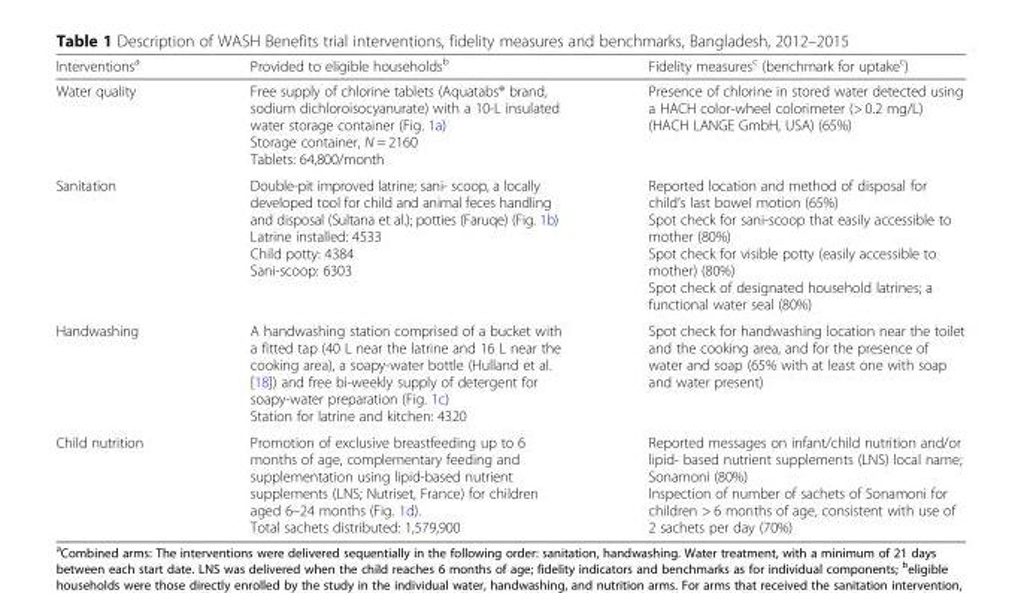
<table><thead><tr><td>Interventions<sup>a</sup></td><td>Provided to eligible households<sup>b</sup></td><td>Fidelity measures<sup>c</sup> (benchmark for uptake<sup>c</sup>)</td></tr></thead><tbody><tr><td>Water quality</td><td>Free supply of chlorine tablets (Aquatabs® brand, sodium dichloroisocyanurate) with a 10-L insulated water storage container (Fig. 1a) Storage container, N = 2160 Tablets: 64,800/month</td><td>Presence of chlorine in stored water detected using a HACH color-wheel colorimeter (&gt; 0.2 mg/L) (HACH LANGE GmbH, USA) (65%)</td></tr><tr><td>Sanitation</td><td>Double-pit improved latrine; sani- scoop, a locally developed tool for child and animal feces handling and disposal (Sultana et al.); potties (Faruqe) (Fig. 1b) Latrine installed: 4533 Child potty: 4384 Sani-scoop: 6303</td><td>Reported location and method of disposal for child’s last bowel motion (65%) Spot check for sani-scoop that easily accessible to mother (80%) Spot check for visible potty (easily accessible to mother) (80%) Spot check of designated household latrines; a functional water seal (80%)</td></tr><tr><td>Handwashing</td><td>A handwashing station comprised of a bucket with a fitted tap (40 L near the latrine and 16 L near the cooking area), a soapy-water bottle (Hulland et al. [18]) and free bi-weekly supply of detergent for soapy-water preparation (Fig. 1c) Station for latrine and kitchen: 4320</td><td>Spot check for handwashing location near the toilet and the cooking area, and for the presence of water and soap (65% with at least one with soap and water present)</td></tr><tr><td>Child nutrition</td><td>Promotion of exclusive breastfeeding up to 6 months of age, complementary feeding and supplementation using lipid-based nutrient supplements (LNS; Nutriset, France) for children aged 6–24 months (Fig. 1d). Total sachets distributed: 1,579,900</td><td>Reported messages on infant/child nutrition and/or lipid- based nutrient supplements (LNS) local name; Sonamoni (80%) Inspection of number of sachets of Sonamoni for children &gt; 6 months of age, consistent with use of 2 sachets per day (70%)</td></tr></tbody></table>